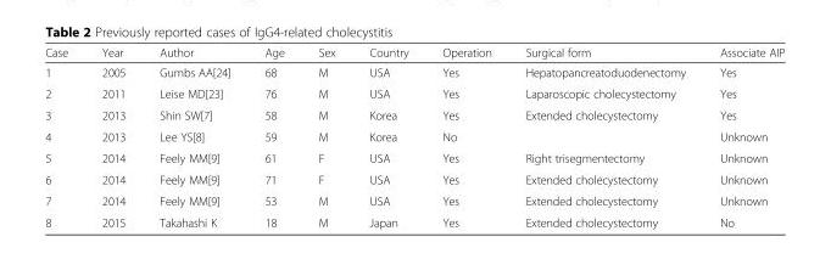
<table><thead><tr><td>Case</td><td>Year</td><td>Author</td><td>Age</td><td>Sex</td><td>Country</td><td>Operation</td><td>Surgical form</td><td>Associate AIP</td></tr></thead><tbody><tr><td>1</td><td>2005</td><td>Gumbs AA[24]</td><td>68</td><td>M</td><td>USA</td><td>Yes</td><td>Hepatopancreatoduodenectomy</td><td>Yes</td></tr><tr><td>2</td><td>2011</td><td>Leise MD[23]</td><td>76</td><td>M</td><td>USA</td><td>Yes</td><td>Laparoscopic cholecystectomy</td><td>Yes</td></tr><tr><td>3</td><td>2013</td><td>Shin SW[7]</td><td>58</td><td>M</td><td>Korea</td><td>Yes</td><td>Extended cholecystectomy</td><td>Yes</td></tr><tr><td>4</td><td>2013</td><td>Lee YS[8]</td><td>59</td><td>M</td><td>Korea</td><td>No</td><td></td><td>Unknown</td></tr><tr><td>5</td><td>2014</td><td>Feely MM[9]</td><td>61</td><td>F</td><td>USA</td><td>Yes</td><td>Right trisegmentectomy</td><td>Unknown</td></tr><tr><td>6</td><td>2014</td><td>Feely MM[9]</td><td>71</td><td>F</td><td>USA</td><td>Yes</td><td>Extended cholecystectomy</td><td>Unknown</td></tr><tr><td>7</td><td>2014</td><td>Feely MM[9]</td><td>53</td><td>M</td><td>USA</td><td>Yes</td><td>Extended cholecystectomy</td><td>Unknown</td></tr><tr><td>8</td><td>2015</td><td>Takahashi K</td><td>18</td><td>M</td><td>Japan</td><td>Yes</td><td>Extended cholecystectomy</td><td>No</td></tr></tbody></table>